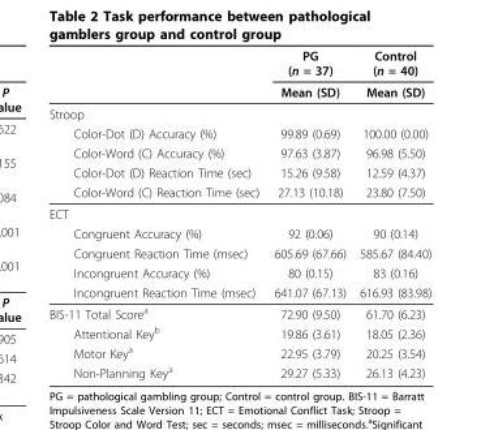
<table><thead><tr><td rowspan="2"></td><td rowspan="2">PG (n = 37) Mean (SD)</td><td rowspan="2">Control (n = 40) Mean (SD)</td></tr><tr></tr></thead><tbody><tr><td colspan="3">Stroop</td></tr><tr><td>Color-Dot (D) Accuracy (%)</td><td>99.89 (0.69)</td><td>100.00 (0.00)</td></tr><tr><td>Color-Word (C) Accuracy (%)</td><td>97.63 (3.87)</td><td>96.98 (5.50)</td></tr><tr><td>Color-Dot (D) Reaction Time (sec)</td><td>15.26 (9.58)</td><td>12.59 (4.37)</td></tr><tr><td>Color-Word (C) Reaction Time (sec)</td><td>27.13 (10.18)</td><td>23.80 (7.50)</td></tr><tr><td colspan="3">ECT</td></tr><tr><td>Congruent Accuracy (%)</td><td>92 (0.06)</td><td>90 (0.14)</td></tr><tr><td>Congruent Reaction Time (msec)</td><td>605.69 (67.66)</td><td>585.67 (84.40)</td></tr><tr><td>Incongruent Accuracy (%)</td><td>80 (0.15)</td><td>83 (0.16)</td></tr><tr><td>Incongruent Reaction Time (msec)</td><td>641.07 (67.13)</td><td>616.93 (83.98)</td></tr><tr><td>BIS-11 Total Score<sup>a</sup></td><td>72.90 (9.50)</td><td>61.70 (6.23)</td></tr><tr><td>Attentional Key<sup>b</sup></td><td>19.86 (3.61)</td><td>18.05 (2.36)</td></tr><tr><td>Motor Key<sup>a</sup></td><td>22.95 (3.79)</td><td>20.25 (3.54)</td></tr><tr><td>Non-Planning Key<sup>a</sup></td><td>29.27 (5.33)</td><td>26.13 (4.23)</td></tr></tbody></table>